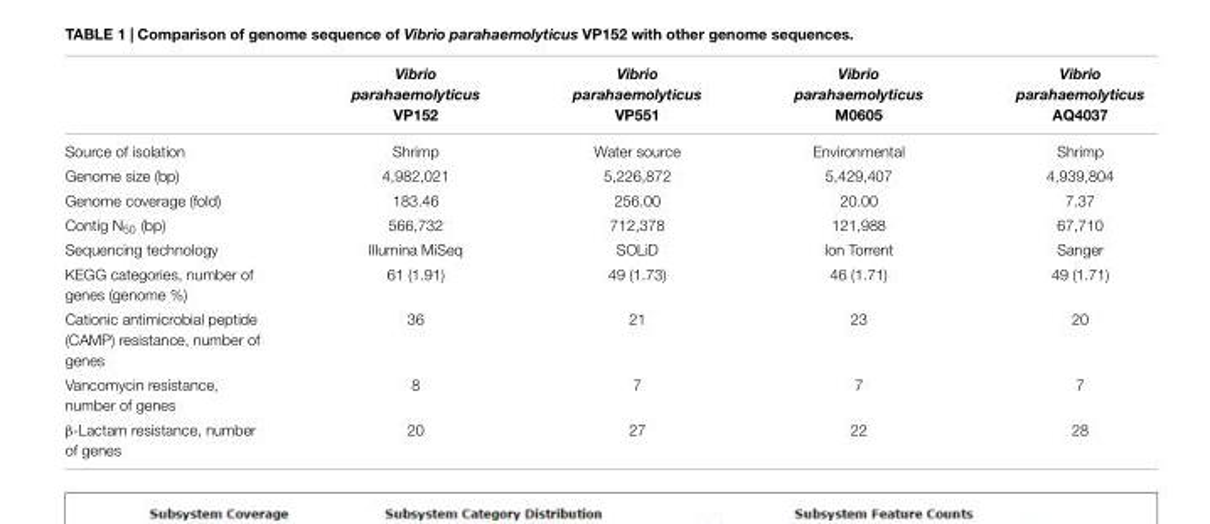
<table><thead><tr><td></td><td>Vibrio parahaemolyticus VP152</td><td>Vibrio parahaemolyticus VP551</td><td>Vibrio parahaemolyticus M0605</td><td>Vibrio parahaemolyticus AQ4037</td></tr></thead><tbody><tr><td>Source of isolation</td><td>Shrimp</td><td>Water source</td><td>Environmental</td><td>Shrimp</td></tr><tr><td>Genome size (bp)</td><td>4,982,021</td><td>5,226,872</td><td>5,429,407</td><td>4,939,804</td></tr><tr><td>Genome coverage (fold)</td><td>183.46</td><td>256.00</td><td>20.00</td><td>7.37</td></tr><tr><td>Contig N<sub>50</sub> (bp)</td><td>566,732</td><td>712,378</td><td>121,988</td><td>67,710</td></tr><tr><td>Sequencing technology</td><td>Illumina MiSeq</td><td>SOLiD</td><td>Ion Torrent</td><td>Sanger</td></tr><tr><td>KEGG categories, number of genes (genome %)</td><td>61 (1.91)</td><td>49 (1.73)</td><td>46 (1.71)</td><td>49 (1.71)</td></tr><tr><td>Cationic antimicrobial peptide (CAMP) resistance, number of genes</td><td>36</td><td>21</td><td>23</td><td>20</td></tr><tr><td>Vancomycin resistance, number of genes</td><td>8</td><td>7</td><td>7</td><td>7</td></tr><tr><td>β-Lactam resistance, number of genes</td><td>20</td><td>27</td><td>22</td><td>28</td></tr></tbody></table>